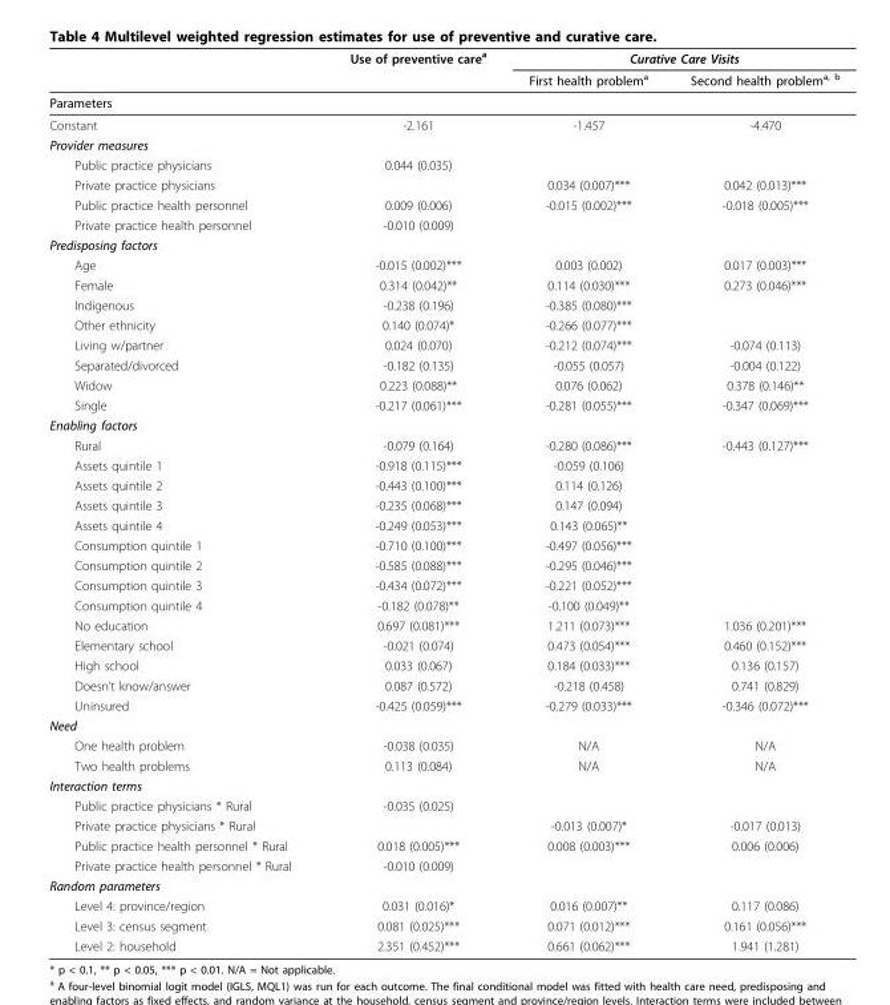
<table><thead><tr><td rowspan="2"></td><td rowspan="2">Use of preventive care<sup>a</sup></td><td colspan="2">Curative Care Visits</td></tr><tr><td>First health problem<sup>a</sup></td><td>Second health problem<sup>a, b</sup></td></tr></thead><tbody><tr><td colspan="4">Parameters</td></tr><tr><td>Constant</td><td>-2.161</td><td>-1.457</td><td>-4.470</td></tr><tr><td colspan="4">Provider measures</td></tr><tr><td>Public practice physicians</td><td>0.044 (0.035)</td><td></td><td></td></tr><tr><td>Private practice physicians</td><td></td><td>0.034 (0.007)***</td><td>0.042 (0.013)***</td></tr><tr><td>Public practice health personnel</td><td>0.009 (0.006)</td><td>-0.015 (0.002)***</td><td>-0.018 (0.005)***</td></tr><tr><td>Private practice health personnel</td><td>-0.010 (0.009)</td><td></td><td></td></tr><tr><td colspan="4">Predisposing factors</td></tr><tr><td>Age</td><td>-0.015 (0.002)***</td><td>0.003 (0.002)</td><td>0.017 (0.003)***</td></tr><tr><td>Female</td><td>0.314 (0.042)**</td><td>0.114 (0.030)***</td><td>0.273 (0.046)***</td></tr><tr><td>Indigenous</td><td>-0.238 (0.196)</td><td>-0.385 (0.080)***</td><td></td></tr><tr><td>Other ethnicity</td><td>0.140 (0.074)*</td><td>-0.266 (0.077)***</td><td></td></tr><tr><td>Living w/partner</td><td>0.024 (0.070)</td><td>-0.212 (0.074)***</td><td>-0.074 (0.113)</td></tr><tr><td>Separated/divorced</td><td>-0.182 (0.135)</td><td>-0.055 (0.057)</td><td>-0.004 (0.122)</td></tr><tr><td>Widow</td><td>0.223 (0.088)**</td><td>0.076 (0.062)</td><td>0.378 (0.146)**</td></tr><tr><td>Single</td><td>-0.217 (0.061)***</td><td>-0.281 (0.055)***</td><td>-0.347 (0.069)***</td></tr><tr><td colspan="4">Enabling factors</td></tr><tr><td>Rural</td><td>-0.079 (0.164)</td><td>-0.280 (0.086)***</td><td>-0.443 (0.127)***</td></tr><tr><td>Assets quintile 1</td><td>-0.918 (0.115)***</td><td>-0.059 (0.106)</td><td></td></tr><tr><td>Assets quintile 2</td><td>-0.443 (0.100)***</td><td>0.114 (0.126)</td><td></td></tr><tr><td>Assets quintile 3</td><td>-0.235 (0.068)***</td><td>0.147 (0.094)</td><td></td></tr><tr><td>Assets quintile 4</td><td>-0.249 (0.053)***</td><td>0.143 (0.065)**</td><td></td></tr><tr><td>Consumption quintile 1</td><td>-0.710 (0.100)***</td><td>-0.497 (0.056)***</td><td></td></tr><tr><td>Consumption quintile 2</td><td>-0.585 (0.088)***</td><td>-0.295 (0.046)***</td><td></td></tr><tr><td>Consumption quintile 3</td><td>-0.434 (0.072)***</td><td>-0.221 (0.052)***</td><td></td></tr><tr><td>Consumption quintile 4</td><td>-0.182 (0.078)**</td><td>-0.100 (0.049)**</td><td></td></tr><tr><td>No education</td><td>0.697 (0.081)***</td><td>1.211 (0.073)***</td><td>1.036 (0.201)***</td></tr><tr><td>Elementary school</td><td>-0.021 (0.074)</td><td>0.473 (0.054)***</td><td>0.460 (0.152)***</td></tr><tr><td>High school</td><td>0.033 (0.067)</td><td>0.184 (0.033)***</td><td>0.136 (0.157)</td></tr><tr><td>Doesn’t know/answer</td><td>0.087 (0.572)</td><td>-0.218 (0.458)</td><td>0.741 (0.829)</td></tr><tr><td>Uninsured</td><td>-0.425 (0.059)***</td><td>-0.279 (0.033)***</td><td>-0.346 (0.072)***</td></tr><tr><td colspan="4">Need</td></tr><tr><td>One health problem</td><td>-0.038 (0.035)</td><td>N/A</td><td>N/A</td></tr><tr><td>Two health problems</td><td>0.113 (0.084)</td><td>N/A</td><td>N/A</td></tr><tr><td colspan="4">Interaction terms</td></tr><tr><td>Public practice physicians * Rural</td><td>-0.035 (0.025)</td><td></td><td></td></tr><tr><td>Private practice physicians * Rural</td><td></td><td>-0.013 (0.007)*</td><td>-0.017 (0.013)</td></tr><tr><td>Public practice health personnel * Rural</td><td>0.018 (0.005)***</td><td>0.008 (0.003)***</td><td>0.006 (0.006)</td></tr><tr><td>Private practice health personnel * Rural</td><td>-0.010 (0.009)</td><td></td><td></td></tr><tr><td colspan="4">Random parameters</td></tr><tr><td>Level 4: province/region</td><td>0.031 (0.016)*</td><td>0.016 (0.007)**</td><td>0.117 (0.086)</td></tr><tr><td>Level 3: census segment</td><td>0.081 (0.025)***</td><td>0.071 (0.012)***</td><td>0.161 (0.056)***</td></tr><tr><td>Level 2: household</td><td>2.351 (0.452)***</td><td>0.661 (0.062)***</td><td>1.941 (1.281)</td></tr></tbody></table>